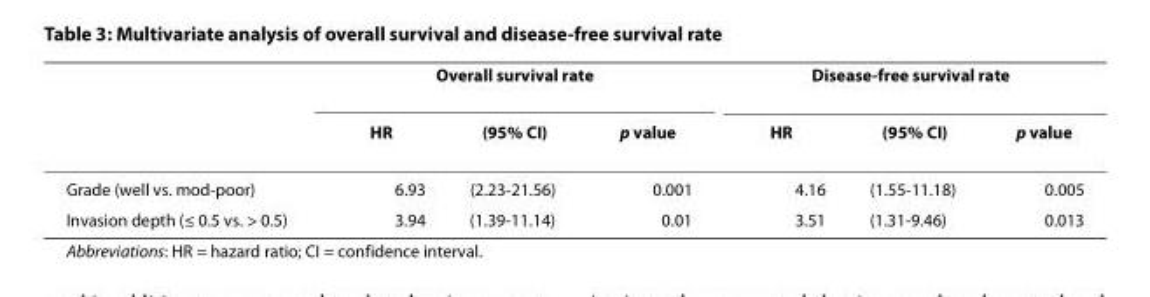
<table><thead><tr><td rowspan="2"></td><td colspan="3">Overall survival rate</td><td colspan="3">Disease-free survival rate</td></tr><tr><td>HR</td><td>(95% CI)</td><td>p value</td><td>HR</td><td>(95% CI)</td><td>p value</td></tr></thead><tbody><tr><td>Grade (well vs. mod-poor)</td><td>6.93</td><td>(2.23-21.56)</td><td>0.001</td><td>4.16</td><td>(1.55-11.18)</td><td>0.005</td></tr><tr><td>Invasion depth (≤ 0.5 vs. &gt; 0.5)</td><td>3.94</td><td>(1.39-11.14)</td><td>0.01</td><td>3.51</td><td>(1.31-9.46)</td><td>0.013</td></tr></tbody></table>